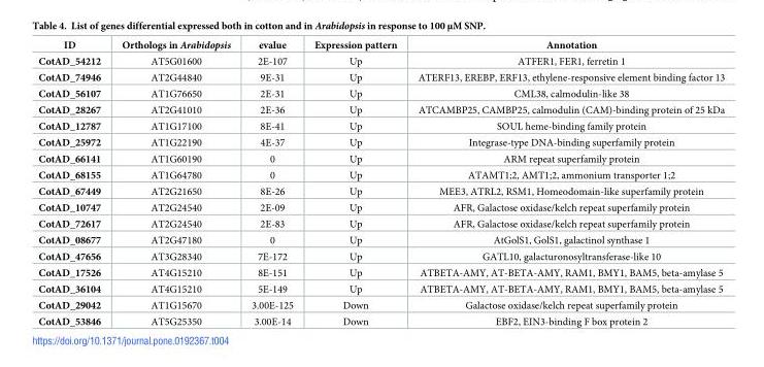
<table><thead><tr><td>ID</td><td>Orthologs in Arabidopsis</td><td>evalue</td><td>Expression pattern</td><td>Annotation</td></tr></thead><tbody><tr><td>CotAD_54212</td><td>AT5G01600</td><td>2E-107</td><td>Up</td><td>ATFER1, FER1, ferretin 1</td></tr><tr><td>CotAD_74946</td><td>AT2G44840</td><td>9E-31</td><td>Up</td><td>ATERF13, EREBP, ERF13, ethylene-responsive element binding factor 13</td></tr><tr><td>CotAD_56107</td><td>AT1G76650</td><td>2E-31</td><td>Up</td><td>CML38, calmodulin-like 38</td></tr><tr><td>CotAD_28267</td><td>AT2G41010</td><td>2E-36</td><td>Up</td><td>ATCAMBP25, CAMBP25, calmodulin (CAM)-binding protein of 25 kDa</td></tr><tr><td>CotAD_12787</td><td>AT1G17100</td><td>8E-41</td><td>Up</td><td>SOUL heme-binding family protein</td></tr><tr><td>CotAD_25972</td><td>AT1G22190</td><td>4E-37</td><td>Up</td><td>Integrase-type DNA-binding superfamily protein</td></tr><tr><td>CotAD_66141</td><td>AT1G60190</td><td>0</td><td>Up</td><td>ARM repeat superfamily protein</td></tr><tr><td>CotAD_68155</td><td>AT1G64780</td><td>0</td><td>Up</td><td>ATAMT1;2, AMT1;2, ammonium transporter 1;2</td></tr><tr><td>CotAD_67449</td><td>AT2G21650</td><td>8E-26</td><td>Up</td><td>MEE3, ATRL2, RSM1, Homeodomain-like superfamily protein</td></tr><tr><td>CotAD_10747</td><td>AT2G24540</td><td>2E-09</td><td>Up</td><td>AFR, Galactose oxidase/kelch repeat superfamily protein</td></tr><tr><td>CotAD_72617</td><td>AT2G24540</td><td>2E-83</td><td>Up</td><td>AFR, Galactose oxidase/kelch repeat superfamily protein</td></tr><tr><td>CotAD_08677</td><td>AT2G47180</td><td>0</td><td>Up</td><td>AtGolS1, GolS1, galactinol synthase 1</td></tr><tr><td>CotAD_47656</td><td>AT3G28340</td><td>7E-172</td><td>Up</td><td>GATL10, galacturonosyltransferase-like 10</td></tr><tr><td>CotAD_17526</td><td>AT4G15210</td><td>8E-151</td><td>Up</td><td>ATBETA-AMY, AT-BETA-AMY, RAM1, BMY1, BAM5, beta-amylase 5</td></tr><tr><td>CotAD_36104</td><td>AT4G15210</td><td>5E-149</td><td>Up</td><td>ATBETA-AMY, AT-BETA-AMY, RAM1, BMY1, BAM5, beta-amylase 5</td></tr><tr><td>CotAD_29042</td><td>AT1G15670</td><td>3.00E-125</td><td>Down</td><td>Galactose oxidase/kelch repeat superfamily protein</td></tr><tr><td>CotAD_53846</td><td>AT5G25350</td><td>3.00E-14</td><td>Down</td><td>EBF2, EIN3-binding F box protein 2</td></tr></tbody></table>